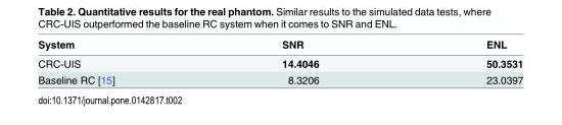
<table><thead><tr><td>System</td><td>SNR</td><td>ENL</td></tr></thead><tbody><tr><td>CRC-UIS</td><td>14.4046</td><td>50.3531</td></tr><tr><td>Baseline RC [15]</td><td>8.3206</td><td>23.0397</td></tr></tbody></table>